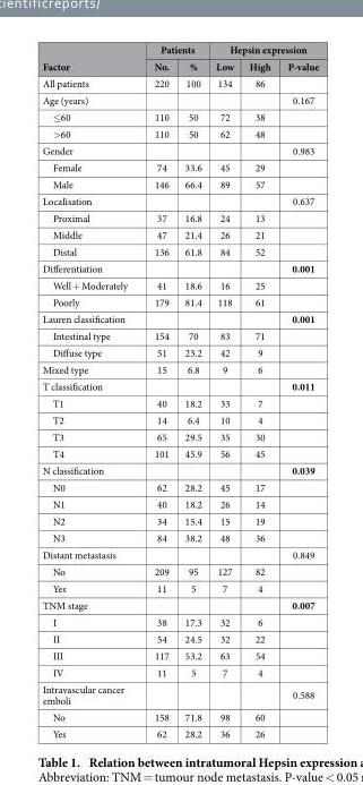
<table><thead><tr><td rowspan="2">Factor</td><td colspan="2">Patients</td><td colspan="3">Hepsin expression</td></tr><tr><td>No.</td><td>%</td><td>Low</td><td>High</td><td>P-value</td></tr></thead><tbody><tr><td>All patients</td><td>220</td><td>100</td><td>134</td><td>86</td><td></td></tr><tr><td>Age (years)</td><td></td><td></td><td></td><td></td><td>0.167</td></tr><tr><td>≤ 60</td><td>110</td><td>50</td><td>72</td><td>38</td><td></td></tr><tr><td>&gt; 60</td><td>110</td><td>50</td><td>62</td><td>48</td><td></td></tr><tr><td>Gender</td><td></td><td></td><td></td><td></td><td>0.983</td></tr><tr><td>Female</td><td>74</td><td>33.6</td><td>45</td><td>29</td><td></td></tr><tr><td>Male</td><td>146</td><td>66.4</td><td>89</td><td>57</td><td></td></tr><tr><td>Localisation</td><td></td><td></td><td></td><td></td><td>0.637</td></tr><tr><td>Proximal</td><td>37</td><td>16.8</td><td>24</td><td>13</td><td></td></tr><tr><td>Middle</td><td>47</td><td>21.4</td><td>26</td><td>21</td><td></td></tr><tr><td>Distal</td><td>136</td><td>61.8</td><td>84</td><td>52</td><td></td></tr><tr><td>Differentiation</td><td></td><td></td><td></td><td></td><td>0.001</td></tr><tr><td>Well + Moderately</td><td>41</td><td>18.6</td><td>16</td><td>25</td><td></td></tr><tr><td>Poorly</td><td>179</td><td>81.4</td><td>118</td><td>61</td><td></td></tr><tr><td>Lauren classification</td><td></td><td></td><td></td><td></td><td>0.001</td></tr><tr><td>Intestinal type</td><td>154</td><td>70</td><td>83</td><td>71</td><td></td></tr><tr><td>Diffuse type</td><td>51</td><td>23.2</td><td>42</td><td>9</td><td></td></tr><tr><td>Mixed type</td><td>15</td><td>6.8</td><td>9</td><td>6</td><td></td></tr><tr><td>T classification</td><td></td><td></td><td></td><td></td><td>0.011</td></tr><tr><td>T1</td><td>40</td><td>18.2</td><td>33</td><td>7</td><td></td></tr><tr><td>T2</td><td>14</td><td>6.4</td><td>10</td><td>4</td><td></td></tr><tr><td>T3</td><td>65</td><td>29.5</td><td>35</td><td>30</td><td></td></tr><tr><td>T4</td><td>101</td><td>45.9</td><td>56</td><td>45</td><td></td></tr><tr><td>N classification</td><td></td><td></td><td></td><td></td><td>0.039</td></tr><tr><td>N0</td><td>62</td><td>28.2</td><td>45</td><td>17</td><td></td></tr><tr><td>N1</td><td>40</td><td>18.2</td><td>26</td><td>14</td><td></td></tr><tr><td>N2</td><td>34</td><td>15.4</td><td>15</td><td>19</td><td></td></tr><tr><td>N3</td><td>84</td><td>38.2</td><td>48</td><td>36</td><td></td></tr><tr><td>Distant metastasis</td><td></td><td></td><td></td><td></td><td>0.849</td></tr><tr><td>No</td><td>209</td><td>95</td><td>127</td><td>82</td><td></td></tr><tr><td>Yes</td><td>11</td><td>5</td><td>7</td><td>4</td><td></td></tr><tr><td>TNM stage</td><td></td><td></td><td></td><td></td><td>0.007</td></tr><tr><td>I</td><td>38</td><td>17.3</td><td>32</td><td>6</td><td></td></tr><tr><td>II</td><td>54</td><td>24.5</td><td>32</td><td>22</td><td></td></tr><tr><td>III</td><td>117</td><td>53.2</td><td>63</td><td>54</td><td></td></tr><tr><td>IV</td><td>11</td><td>5</td><td>7</td><td>4</td><td></td></tr><tr><td>Intravascular cancer emboli</td><td></td><td></td><td></td><td></td><td>0.588</td></tr><tr><td>No</td><td>158</td><td>71.8</td><td>98</td><td>60</td><td></td></tr><tr><td>Yes</td><td>62</td><td>28.2</td><td>36</td><td>26</td><td></td></tr></tbody></table>